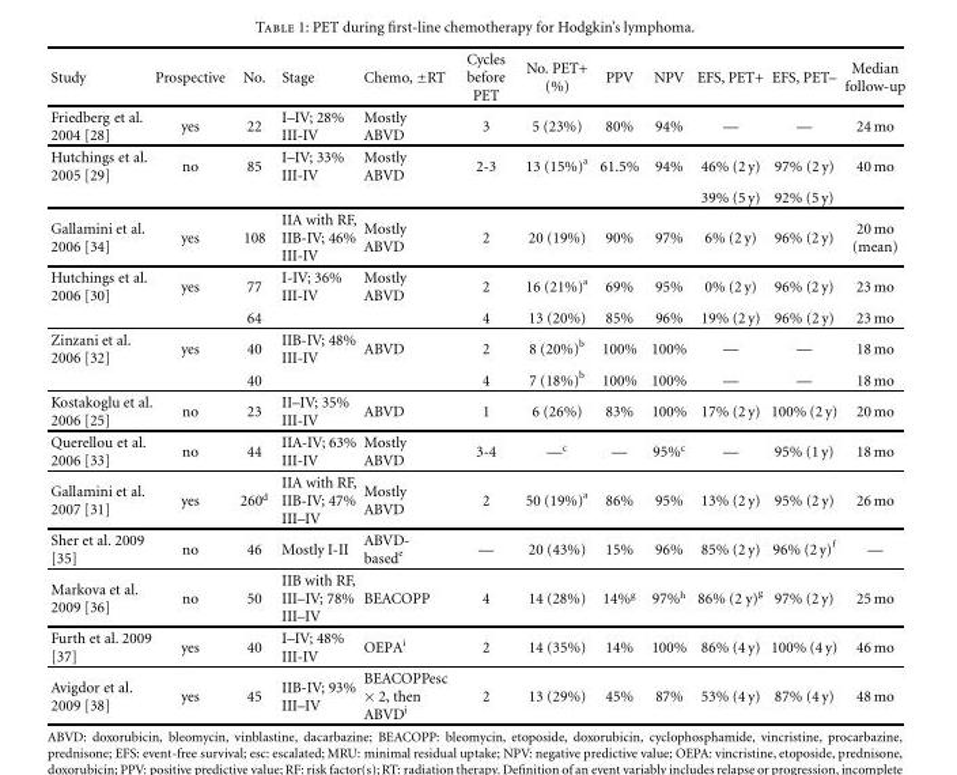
<table><thead><tr><td>Study</td><td>Prospective</td><td>No.</td><td>Stage</td><td>Chemo, ±RT</td><td>Cycles before PET</td><td>No. PET+ (%)</td><td>PPV</td><td>NPV</td><td>EFS, PET+</td><td>EFS, PET–</td><td>Median follow-up</td></tr></thead><tbody><tr><td>Friedberg et al. 2004 [28]</td><td>yes</td><td>22</td><td>I–IV; 28% III-IV</td><td>Mostly ABVD</td><td>3</td><td>5 (23%)</td><td>80%</td><td>94%</td><td>—</td><td>—</td><td>24 mo</td></tr><tr><td rowspan="2">Hutchings et al. 2005 [29]</td><td>no</td><td>85</td><td>I–IV; 33% III-IV</td><td>Mostly ABVD</td><td>2-3</td><td>13 (15%)<sup>a</sup></td><td>61.5%</td><td>94%</td><td>46% (2 y)</td><td>97% (2 y)</td><td>40 mo</td></tr><tr><td></td><td></td><td></td><td></td><td></td><td></td><td></td><td></td><td>39% (5 y)</td><td>92% (5 y)</td><td></td></tr><tr><td>Gallamini et al. 2006 [34]</td><td>yes</td><td>108</td><td>IIA with RF, IIB-IV; 46% III-IV</td><td>Mostly ABVD</td><td>2</td><td>20 (19%)</td><td>90%</td><td>97%</td><td>6% (2 y)</td><td>96% (2 y)</td><td>20 mo (mean)</td></tr><tr><td rowspan="2">Hutchings et al. 2006 [30]</td><td>yes</td><td>77</td><td>I-IV; 36% III-IV</td><td>Mostly ABVD</td><td>2</td><td>16 (21%)<sup>a</sup></td><td>69%</td><td>95%</td><td>0% (2 y)</td><td>96% (2 y)</td><td>23 mo</td></tr><tr><td></td><td>64</td><td></td><td></td><td>4</td><td>13 (20%)</td><td>85%</td><td>96%</td><td>19% (2 y)</td><td>96% (2 y)</td><td>23 mo</td></tr><tr><td rowspan="2">Zinzani et al. 2006 [32]</td><td>yes</td><td>40</td><td>IIB-IV; 48% III-IV</td><td>ABVD</td><td>2</td><td>8 (20%)<sup>b</sup></td><td>100%</td><td>100%</td><td>—</td><td>—</td><td>18 mo</td></tr><tr><td></td><td>40</td><td></td><td></td><td>4</td><td>7 (18%)<sup>b</sup></td><td>100%</td><td>100%</td><td>—</td><td>—</td><td>18 mo</td></tr><tr><td>Kostakoglu et al. 2006 [25]</td><td>no</td><td>23</td><td>II–IV; 35% III-IV</td><td>ABVD</td><td>1</td><td>6 (26%)</td><td>83%</td><td>100%</td><td>17% (2 y)</td><td>100% (2 y)</td><td>20 mo</td></tr><tr><td>Querellou et al. 2006 [33]</td><td>no</td><td>44</td><td>IIA-IV; 63% III-IV</td><td>Mostly ABVD</td><td>3-4</td><td>—<sup>c</sup></td><td>—</td><td>95%<sup>c</sup></td><td>—</td><td>95% (1 y)</td><td>18 mo</td></tr><tr><td>Gallamini et al. 2007 [31]</td><td>yes</td><td>260<sup>d</sup></td><td>IIA with RF, IIB-IV; 47% III–IV</td><td>Mostly ABVD</td><td>2</td><td>50 (19%)<sup>a</sup></td><td>86%</td><td>95%</td><td>13% (2 y)</td><td>95% (2 y)</td><td>26 mo</td></tr><tr><td>Sher et al. 2009 [35]</td><td>no</td><td>46</td><td>Mostly I-II</td><td>ABVD- based<sup>e</sup></td><td>—</td><td>20 (43%)</td><td>15%</td><td>96%</td><td>85% (2 y)</td><td>96% (2y)<sup>f</sup></td><td>—</td></tr><tr><td>Markova et al. 2009 [36]</td><td>no</td><td>50</td><td>IIB with RF, III–IV; 78% III–IV</td><td>BEACOPP</td><td>4</td><td>14 (28%)</td><td>14%<sup>g</sup></td><td>97%<sup>h</sup></td><td>86% (2 y)<sup>g</sup></td><td>97% (2 y)</td><td>25 mo</td></tr><tr><td>Furth et al. 2009 [37]</td><td>yes</td><td>40</td><td>I–IV; 48% III-IV</td><td>OEPA<sup>i</sup></td><td>2</td><td>14 (35%)</td><td>14%</td><td>100%</td><td>86% (4 y)</td><td>100% (4 y)</td><td>46 mo</td></tr><tr><td>Avigdor et al. 2009 [38]</td><td>yes</td><td>45</td><td>IIB-IV; 93% III–IV</td><td>BEACOPPesc × 2, then ABVD<sup>j</sup></td><td>2</td><td>13 (29%)</td><td>45%</td><td>87%</td><td>53% (4 y)</td><td>87% (4 y)</td><td>48 mo</td></tr></tbody></table>